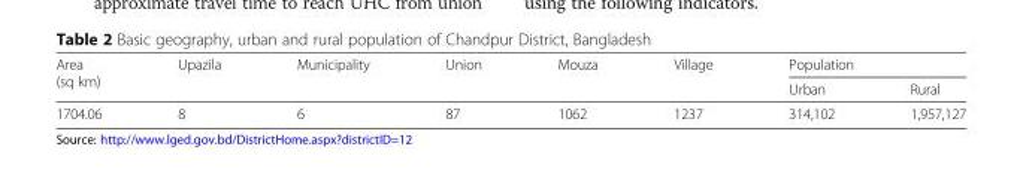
<table><thead><tr><td rowspan="2">Area (sq km)</td><td rowspan="2">Upazila</td><td rowspan="2">Municipality</td><td rowspan="2">Union</td><td rowspan="2">Mouza</td><td rowspan="2">Village</td><td colspan="2">Population</td></tr><tr><td>Urban</td><td>Rural</td></tr></thead><tbody><tr><td>1704.06</td><td>8</td><td>6</td><td>87</td><td>1062</td><td>1237</td><td>314,102</td><td>1,957,127</td></tr></tbody></table>